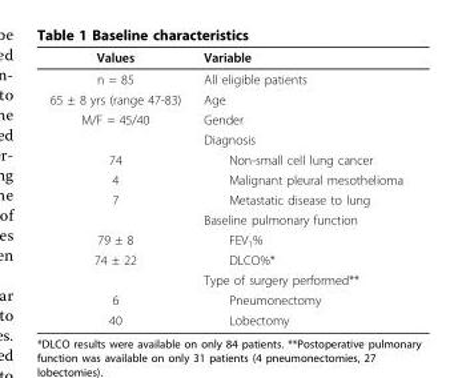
<table><thead><tr><td>Values</td><td>Variable</td></tr></thead><tbody><tr><td>n = 85</td><td>All eligible patients</td></tr><tr><td>65 ± 8 yrs (range 47-83)</td><td>Age</td></tr><tr><td rowspan="2">M/F = 45/40</td><td>Gender</td></tr><tr><td>Diagnosis</td></tr><tr><td>74</td><td>Non-small cell lung cancer</td></tr><tr><td>4</td><td>Malignant pleural mesothelioma</td></tr><tr><td rowspan="2">7</td><td>Metastatic disease to lung</td></tr><tr><td>Baseline pulmonary function</td></tr><tr><td>79 ± 8</td><td>FEV<sub>1</sub>%</td></tr><tr><td rowspan="2">74 ± 22</td><td>DLCO%*</td></tr><tr><td>Type of surgery performed**</td></tr><tr><td>6</td><td>Pneumonectomy</td></tr><tr><td>40</td><td>Lobectomy</td></tr></tbody></table>